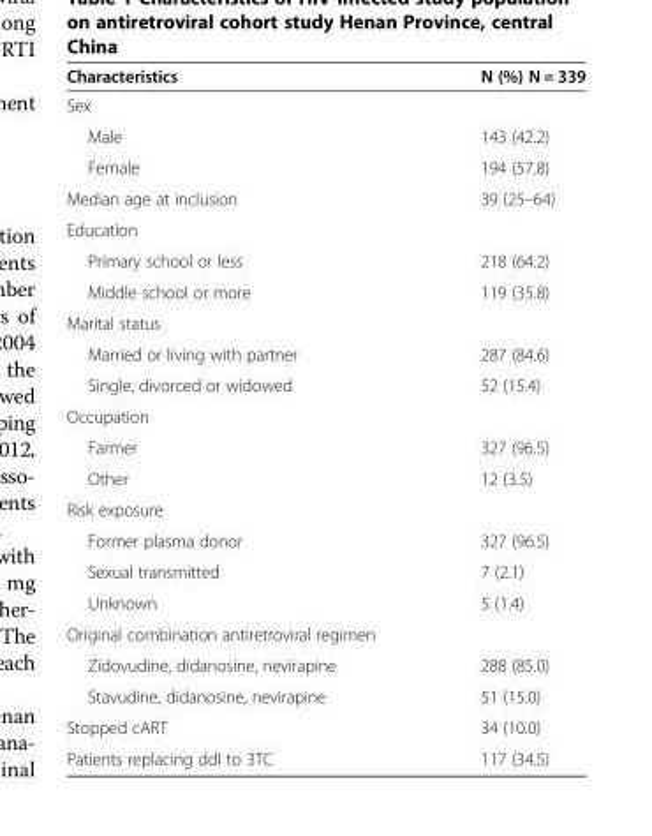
<table><thead><tr><td>Characteristics</td><td>N (%) N = 339</td></tr></thead><tbody><tr><td colspan="2">Sex</td></tr><tr><td>Male</td><td>143 (42.2)</td></tr><tr><td>Female</td><td>194 (57.8)</td></tr><tr><td>Median age at inclusion</td><td>39 (25–64)</td></tr><tr><td colspan="2">Education</td></tr><tr><td>Primary school or less</td><td>218 (64.2)</td></tr><tr><td>Middle school or more</td><td>119 (35.8)</td></tr><tr><td colspan="2">Marital status</td></tr><tr><td>Married or living with partner</td><td>287 (84.6)</td></tr><tr><td>Single, divorced or widowed</td><td>52 (15.4)</td></tr><tr><td colspan="2">Occupation</td></tr><tr><td>Farmer</td><td>327 (96.5)</td></tr><tr><td>Other</td><td>12 (3.5)</td></tr><tr><td colspan="2">Risk exposure</td></tr><tr><td>Former plasma donor</td><td>327 (96.5)</td></tr><tr><td>Sexual transmitted</td><td>7 (2.1)</td></tr><tr><td>Unknown</td><td>5 (1.4)</td></tr><tr><td colspan="2">Original combination antiretroviral regimen</td></tr><tr><td>Zidovudine, didanosine, nevirapine</td><td>288 (85.0)</td></tr><tr><td>Stavudine, didanosine, nevirapine</td><td>51 (15.0)</td></tr><tr><td>Stopped cART</td><td>34 (10.0)</td></tr><tr><td>Patients replacing ddI to 3TC</td><td>117 (34.5)</td></tr></tbody></table>